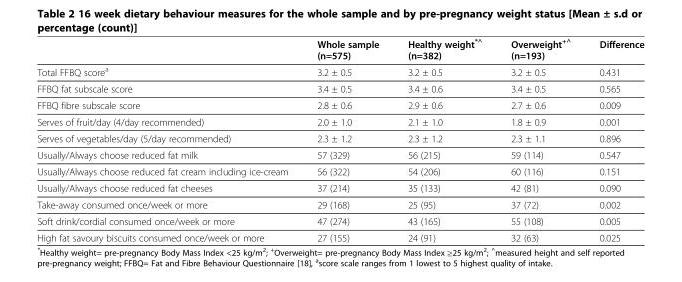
<table><thead><tr><td></td><td>Whole sample (n=575)</td><td>Healthy weight<sup>*^</sup> (n=382)</td><td>Overweight<sup>+^</sup> (n=193)</td><td>Difference</td></tr></thead><tbody><tr><td>Total FFBQ score<sup>a</sup></td><td>3.2 ± 0.5</td><td>3.2 ± 0.5</td><td>3.2 ± 0.5</td><td>0.431</td></tr><tr><td>FFBQ fat subscale score</td><td>3.4 ± 0.5</td><td>3.4 ± 0.6</td><td>3.4 ± 0.5</td><td>0.565</td></tr><tr><td>FFBQ fibre subscale score</td><td>2.8 ± 0.6</td><td>2.9 ± 0.6</td><td>2.7 ± 0.6</td><td>0.009</td></tr><tr><td>Serves of fruit/day (4/day recommended)</td><td>2.0 ± 1.0</td><td>2.1 ± 1.0</td><td>1.8 ± 0.9</td><td>0.001</td></tr><tr><td>Serves of vegetables/day (5/day recommended)</td><td>2.3 ± 1.2</td><td>2.3 ± 1.2</td><td>2.3 ± 1.1</td><td>0.896</td></tr><tr><td>Usually/Always choose reduced fat milk</td><td>57 (329)</td><td>56 (215)</td><td>59 (114)</td><td>0.547</td></tr><tr><td>Usually/Always choose reduced fat cream including ice-cream</td><td>56 (322)</td><td>54 (206)</td><td>60 (116)</td><td>0.151</td></tr><tr><td>Usually/Always choose reduced fat cheeses</td><td>37 (214)</td><td>35 (133)</td><td>42 (81)</td><td>0.090</td></tr><tr><td>Take-away consumed once/week or more</td><td>29 (168)</td><td>25 (95)</td><td>37 (72)</td><td>0.002</td></tr><tr><td>Soft drink/cordial consumed once/week or more</td><td>47 (274)</td><td>43 (165)</td><td>55 (108)</td><td>0.005</td></tr><tr><td>High fat savoury biscuits consumed once/week or more</td><td>27 (155)</td><td>24 (91)</td><td>32 (63)</td><td>0.025</td></tr></tbody></table>